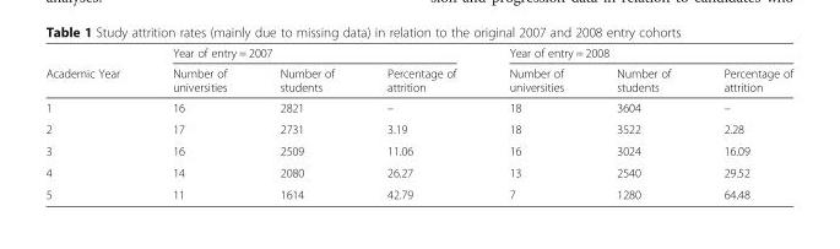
<table><thead><tr><td rowspan="2">Academic Year</td><td colspan="3">Year of entry = 2007</td><td colspan="3">Year of entry = 2008</td></tr><tr><td>Number of universities</td><td>Number of students</td><td>Percentage of attrition</td><td>Number of universities</td><td>Number of students</td><td>Percentage of attrition</td></tr></thead><tbody><tr><td>1</td><td>16</td><td>2821</td><td>–</td><td>18</td><td>3604</td><td>–</td></tr><tr><td>2</td><td>17</td><td>2731</td><td>3.19</td><td>18</td><td>3522</td><td>2.28</td></tr><tr><td>3</td><td>16</td><td>2509</td><td>11.06</td><td>16</td><td>3024</td><td>16.09</td></tr><tr><td>4</td><td>14</td><td>2080</td><td>26.27</td><td>13</td><td>2540</td><td>29.52</td></tr><tr><td>5</td><td>11</td><td>1614</td><td>42.79</td><td>7</td><td>1280</td><td>64.48</td></tr></tbody></table>